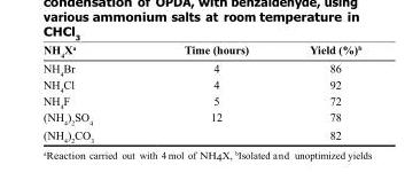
<table><thead><tr><td>NH<sub>4</sub>X<sup>a</sup></td><td>Time (hours)</td><td>Yield (%)<sup>b</sup></td></tr></thead><tbody><tr><td>NH<sub>4</sub>Br</td><td>4</td><td>86</td></tr><tr><td>NH<sub>4</sub>Cl</td><td>4</td><td>92</td></tr><tr><td>NH<sub>4</sub>F</td><td>5</td><td>72</td></tr><tr><td>(NH<sub>4</sub>)<sub>2</sub>SO<sub>4</sub></td><td>12</td><td>78</td></tr><tr><td>(NH<sub>4</sub>)<sub>2</sub>CO<sub>3</sub></td><td></td><td>82</td></tr></tbody></table>